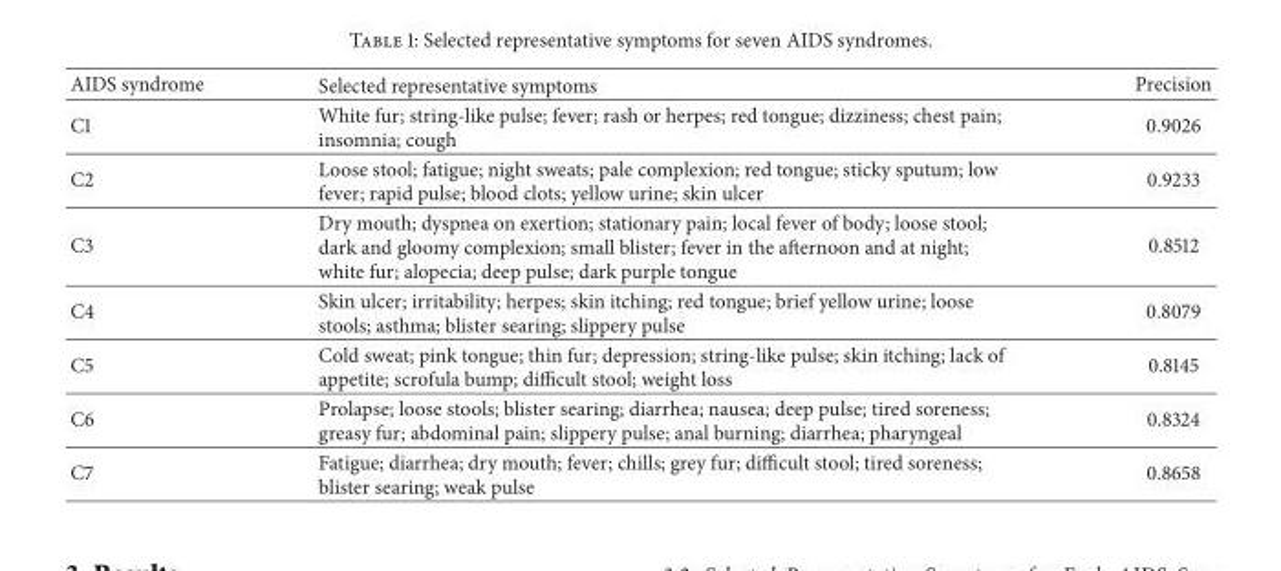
<table><thead><tr><td>AIDS syndrome</td><td>Selected representative symptoms</td><td>Precision</td></tr></thead><tbody><tr><td>C1</td><td>White fur; string-like pulse; fever; rash or herpes; red tongue; dizziness; chest pain; insomnia; cough</td><td>0.9026</td></tr><tr><td>C2</td><td>Loose stool; fatigue; night sweats; pale complexion; red tongue; sticky sputum; low fever; rapid pulse; blood clots; yellow urine; skin ulcer</td><td>0.9233</td></tr><tr><td>C3</td><td>Dry mouth; dyspnea on exertion; stationary pain; local fever of body; loose stool; dark and gloomy complexion; small blister; fever in the afternoon and at night; white fur; alopecia; deep pulse; dark purple tongue</td><td>0.8512</td></tr><tr><td>C4</td><td>Skin ulcer; irritability; herpes; skin itching; red tongue; brief yellow urine; loose stools; asthma; blister searing; slippery pulse</td><td>0.8079</td></tr><tr><td>C5</td><td>Cold sweat; pink tongue; thin fur; depression; string-like pulse; skin itching; lack of appetite; scrofula bump; difficult stool; weight loss</td><td>0.8145</td></tr><tr><td>C6</td><td>Prolapse; loose stools; blister searing; diarrhea; nausea; deep pulse; tired soreness; greasy fur; abdominal pain; slippery pulse; anal burning; diarrhea; pharyngeal</td><td>0.8324</td></tr><tr><td>C7</td><td>Fatigue; diarrhea; dry mouth; fever; chills; grey fur; difficult stool; tired soreness; blister searing; weak pulse</td><td>0.8658</td></tr></tbody></table>